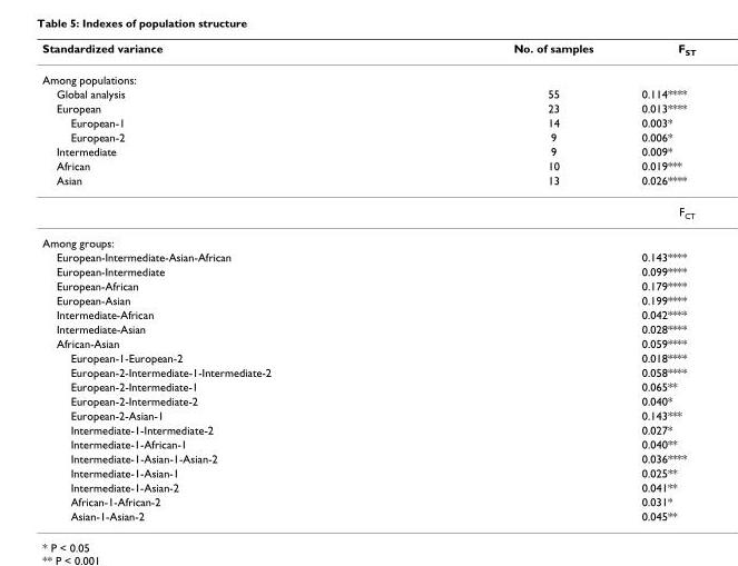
<table><thead><tr><td>Standardized variance</td><td>No. of samples</td><td>F<sub>ST</sub></td></tr></thead><tbody><tr><td colspan="3">Among populations:</td></tr><tr><td>Global analysis</td><td>55</td><td>0.114****</td></tr><tr><td>European</td><td>23</td><td>0.013****</td></tr><tr><td>European-1</td><td>14</td><td>0.003*</td></tr><tr><td>European-2</td><td>9</td><td>0.006*</td></tr><tr><td>Intermediate</td><td>9</td><td>0.009*</td></tr><tr><td>African</td><td>10</td><td>0.019***</td></tr><tr><td rowspan="2">Asian</td><td>13</td><td>0.026****</td></tr><tr><td></td><td>F<sub>CT</sub></td></tr><tr><td colspan="3">Among groups:</td></tr><tr><td>European-Intermediate-Asian-African</td><td></td><td>0.143****</td></tr><tr><td>European-Intermediate</td><td></td><td>0.099****</td></tr><tr><td>European-African</td><td></td><td>0.179****</td></tr><tr><td>European-Asian</td><td></td><td>0.199****</td></tr><tr><td>Intermediate-African</td><td></td><td>0.042****</td></tr><tr><td>Intermediate-Asian</td><td></td><td>0.028****</td></tr><tr><td>African-Asian</td><td></td><td>0.059****</td></tr><tr><td>European-1-European-2</td><td></td><td>0.018****</td></tr><tr><td>European-2-Intermediate-1-Intermediate-2</td><td></td><td>0.058****</td></tr><tr><td>European-2-Intermediate-1</td><td></td><td>0.065**</td></tr><tr><td>European-2-Intermediate-2</td><td></td><td>0.040*</td></tr><tr><td>European-2-Asian-1</td><td></td><td>0.143***</td></tr><tr><td>Intermediate-1-Intermediate-2</td><td></td><td>0.027*</td></tr><tr><td>Intermediate-1-African-1</td><td></td><td>0.040**</td></tr><tr><td>Intermediate-1-Asian-1-Asian-2</td><td></td><td>0.036****</td></tr><tr><td>Intermediate-1-Asian-1</td><td></td><td>0.025**</td></tr><tr><td>Intermediate-1-Asian-2</td><td></td><td>0.041**</td></tr><tr><td>African-1-African-2</td><td></td><td>0.031*</td></tr><tr><td>Asian-1-Asian-2</td><td></td><td>0.045**</td></tr></tbody></table>